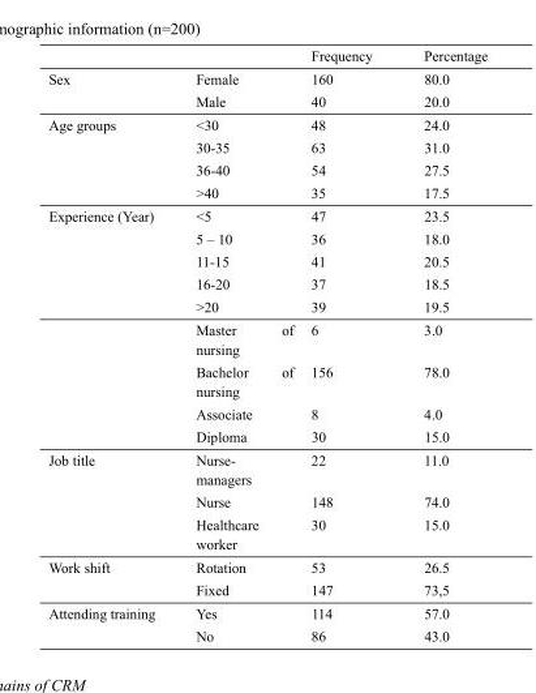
<table><thead><tr><td></td><td></td><td>Frequency</td><td>Percentage</td></tr></thead><tbody><tr><td rowspan="2">Sex</td><td>Female</td><td>160</td><td>80.0</td></tr><tr><td>Male</td><td>40</td><td>20.0</td></tr><tr><td rowspan="4">Age groups</td><td>&lt;30</td><td>48</td><td>24.0</td></tr><tr><td>30-35</td><td>63</td><td>31.0</td></tr><tr><td>36-40</td><td>54</td><td>27.5</td></tr><tr><td>&gt;40</td><td>35</td><td>17.5</td></tr><tr><td rowspan="9">Experience (Year)</td><td>&lt;5</td><td>47</td><td>23.5</td></tr><tr><td>5 – 10</td><td>36</td><td>18.0</td></tr><tr><td>11-15</td><td>41</td><td>20.5</td></tr><tr><td>16-20</td><td>37</td><td>18.5</td></tr><tr><td>&gt;20</td><td>39</td><td>19.5</td></tr><tr><td>Master of nursing</td><td>6</td><td>3.0</td></tr><tr><td>Bachelor of nursing</td><td>156</td><td>78.0</td></tr><tr><td>Associate</td><td>8</td><td>4.0</td></tr><tr><td>Diploma</td><td>30</td><td>15.0</td></tr><tr><td rowspan="3">Job title</td><td>Nurse- managers</td><td>22</td><td>11.0</td></tr><tr><td>Nurse</td><td>148</td><td>74.0</td></tr><tr><td>Healthcare worker</td><td>30</td><td>15.0</td></tr><tr><td rowspan="2">Work shift</td><td>Rotation</td><td>53</td><td>26.5</td></tr><tr><td>Fixed</td><td>147</td><td>73,5</td></tr><tr><td rowspan="2">Attending training</td><td>Yes</td><td>114</td><td>57.0</td></tr><tr><td>No</td><td>86</td><td>43.0</td></tr></tbody></table>